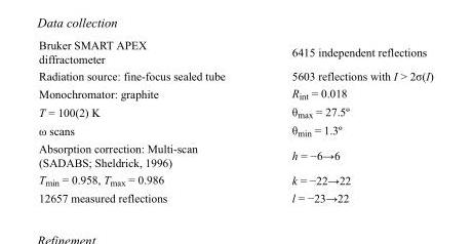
<table><tbody><tr><td>Bruker SMART APEX diffractometer</td><td>6415 independent reflections</td></tr><tr><td>Radiation source: fine-focus sealed tube</td><td>5603 reflections with I &gt; 2σ(I)</td></tr><tr><td>Monochromator: graphite</td><td>R<sub>int</sub> = 0.018</td></tr><tr><td>T = 100(2) K</td><td>θ<sub>max</sub> = 27.5º</td></tr><tr><td>ω scans</td><td>θ<sub>min</sub> = 1.3º</td></tr><tr><td>Absorption correction: Multi-scan (SADABS; Sheldrick, 1996)</td><td>h = −6→6</td></tr><tr><td>T<sub>min</sub> = 0.958, T<sub>max</sub> = 0.986</td><td>k = −22→22</td></tr><tr><td>12657 measured reflections</td><td>l = −23→22</td></tr></tbody></table>